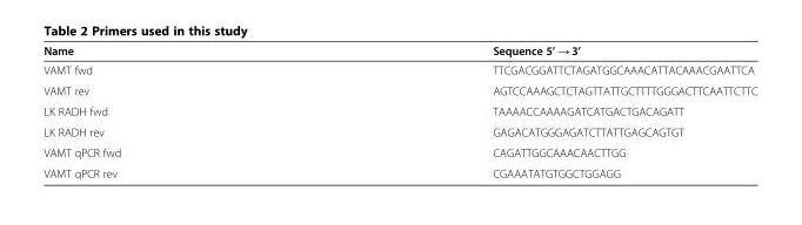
<table><thead><tr><td>Name</td><td>Sequence 5’ → 3’</td></tr></thead><tbody><tr><td>VAMT fwd</td><td>TTCGACGGATTCTAGATGGCAAACATTACAAACGAATTCA</td></tr><tr><td>VAMT rev</td><td>AGTCCAAAGCTCTAGTTATTGCTTTTGGGACTTCAATTCTTC</td></tr><tr><td>LK RADH fwd</td><td>TAAAACCAAAAGATCATGACTGACAGATT</td></tr><tr><td>LK RADH rev</td><td>GAGACATGGGAGATCTTATTGAGCAGTGT</td></tr><tr><td>VAMT qPCR fwd</td><td>CAGATTGGCAAACAACTTGG</td></tr><tr><td>VAMT qPCR rev</td><td>CGAAATATGTGGCTGGAGG</td></tr></tbody></table>